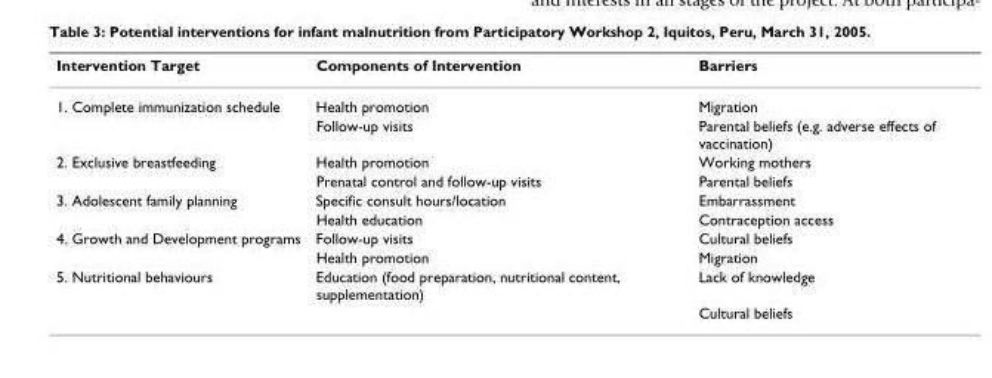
<table><thead><tr><td>Intervention Target</td><td>Components of Intervention</td><td>Barriers</td></tr></thead><tbody><tr><td rowspan="2">1. Complete immunization schedule</td><td>Health promotion</td><td>Migration</td></tr><tr><td>Follow-up visits</td><td>Parental beliefs (e.g. adverse effects of vaccination)</td></tr><tr><td rowspan="2">2. Exclusive breastfeeding</td><td>Health promotion</td><td>Working mothers</td></tr><tr><td>Prenatal control and follow-up visits</td><td>Parental beliefs</td></tr><tr><td rowspan="2">3. Adolescent family planning</td><td>Specific consult hours/location</td><td>Embarrassment</td></tr><tr><td>Health education</td><td>Contraception access</td></tr><tr><td rowspan="2">4. Growth and Development programs</td><td>Follow-up visits</td><td>Cultural beliefs</td></tr><tr><td>Health promotion</td><td>Migration</td></tr><tr><td rowspan="2">5. Nutritional behaviours</td><td>Education (food preparation, nutritional content, supplementation)</td><td>Lack of knowledge</td></tr><tr><td></td><td>Cultural beliefs</td></tr></tbody></table>